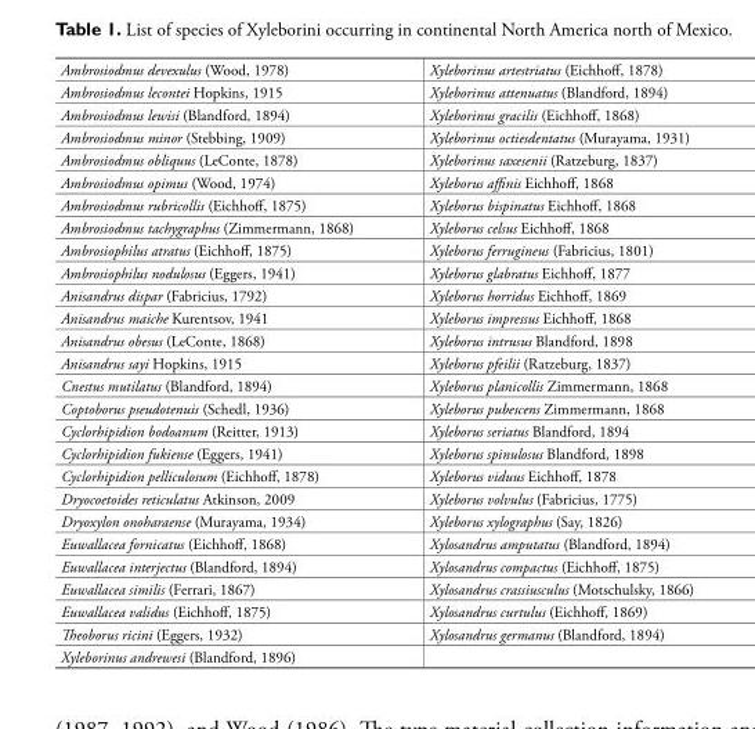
<table><tbody><tr><td>Ambrosiodmus devexulus (Wood, 1978)</td><td>Xyleborinus artestriatus (Eichhoff, 1878)</td></tr><tr><td>Ambrosiodmus lecontei Hopkins, 1915</td><td>Xyleborinus attenuatus (Blandford, 1894)</td></tr><tr><td>Ambrosiodmus lewisi (Blandford, 1894)</td><td>Xyleborinus gracilis (Eichhoff, 1868)</td></tr><tr><td>Ambrosiodmus minor (Stebbing, 1909)</td><td>Xyleborinus octiesdentatus (Murayama, 1931)</td></tr><tr><td>Ambrosiodmus obliquus (LeConte, 1878)</td><td>Xyleborinus saxesenii (Ratzeburg, 1837)</td></tr><tr><td>Ambrosiodmus opimus (Wood, 1974)</td><td>Xyleborus affinis Eichhoff, 1868</td></tr><tr><td>Ambrosiodmus rubricollis (Eichhoff, 1875)</td><td>Xyleborus bispinatus Eichhoff, 1868</td></tr><tr><td>Ambrosiodmus tachygraphus (Zimmermann, 1868)</td><td>Xyleborus celsus Eichhoff, 1868</td></tr><tr><td>Ambrosiophilus atratus (Eichhoff, 1875)</td><td>Xyleborus ferrugineus (Fabricius, 1801)</td></tr><tr><td>Ambrosiophilus nodulosus (Eggers, 1941)</td><td>Xyleborus glabratus Eichhoff, 1877</td></tr><tr><td>Anisandrus dispar (Fabricius, 1792)</td><td>Xyleborus horridus Eichhoff, 1869</td></tr><tr><td>Anisandrus maiche Kurentsov, 1941</td><td>Xyleborus impressus Eichhoff, 1868</td></tr><tr><td>Anisandrus obesus (LeConte, 1868)</td><td>Xyleborus intrusus Blandford, 1898</td></tr><tr><td>Anisandrus sayi Hopkins, 1915</td><td>Xyleborus pfeilii (Ratzeburg, 1837)</td></tr><tr><td>Cnestus mutilatus (Blandford, 1894)</td><td>Xyleborus planicollis Zimmermann, 1868</td></tr><tr><td>Coptoborus pseudotenuis (Schedl, 1936)</td><td>Xyleborus pubescens Zimmermann, 1868</td></tr><tr><td>Cyclorhipidion bodoanum (Reitter, 1913)</td><td>Xyleborus seriatus Blandford, 1894</td></tr><tr><td>Cyclorhipidion fukiense (Eggers, 1941)</td><td>Xyleborus spinulosus Blandford, 1898</td></tr><tr><td>Cyclorhipidion pelliculosum (Eichhoff, 1878)</td><td>Xyleborus viduus Eichhoff, 1878</td></tr><tr><td>Dryocoetoides reticulatus Atkinson, 2009</td><td>Xyleborus volvulus (Fabricius, 1775)</td></tr><tr><td>Dryoxylon onoharaense (Murayama, 1934)</td><td>Xyleborus xylographus (Say, 1826)</td></tr><tr><td>Euwallacea fornicatus (Eichhoff, 1868)</td><td>Xylosandrus amputatus (Blandford, 1894)</td></tr><tr><td>Euwallacea interjectus (Blandford, 1894)</td><td>Xylosandrus compactus (Eichhoff, 1875)</td></tr><tr><td>Euwallacea similis (Ferrari, 1867)</td><td>Xylosandrus crassiusculus (Motschulsky, 1866)</td></tr><tr><td>Euwallacea validus (Eichhoff, 1875)</td><td>Xylosandrus curtulus (Eichhoff, 1869)</td></tr><tr><td>Theoborus ricini (Eggers, 1932)</td><td>Xylosandrus germanus (Blandford, 1894)</td></tr><tr><td>Xyleborinus andrewesi (Blandford, 1896)</td><td></td></tr></tbody></table>